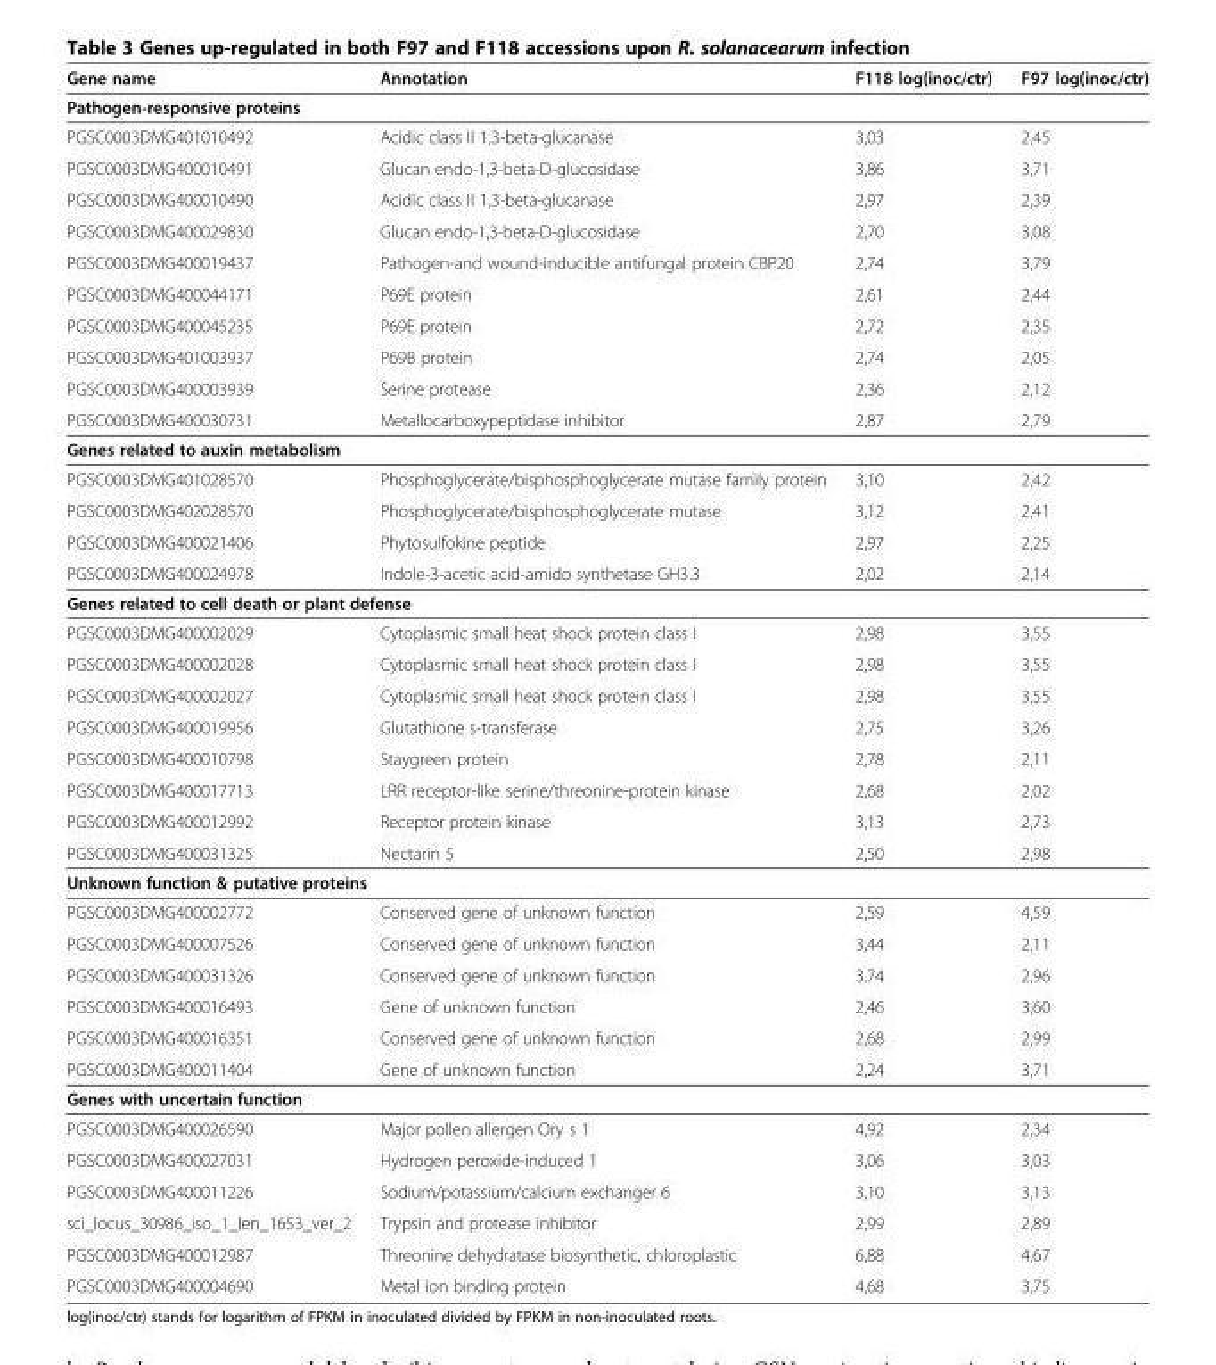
<table><thead><tr><td>Gene name</td><td>Annotation</td><td>F118 log(inoc/ctr)</td><td>F97 log(inoc/ctr)</td></tr></thead><tbody><tr><td colspan="4">Pathogen-responsive proteins</td></tr><tr><td>PGSC0003DMG401010492</td><td>Acidic class II 1,3-beta-glucanase</td><td>3,03</td><td>2,45</td></tr><tr><td>PGSC0003DMG400010491</td><td>Glucan endo-1,3-beta-D-glucosidase</td><td>3,86</td><td>3,71</td></tr><tr><td>PGSC0003DMG400010490</td><td>Acidic class II 1,3-beta-glucanase</td><td>2,97</td><td>2,39</td></tr><tr><td>PGSC0003DMG400029830</td><td>Glucan endo-1,3-beta-D-glucosidase</td><td>2,70</td><td>3,08</td></tr><tr><td>PGSC0003DMG400019437</td><td>Pathogen-and wound-inducible antifungal protein CBP20</td><td>2,74</td><td>3,79</td></tr><tr><td>PGSC0003DMG400044171</td><td>P69E protein</td><td>2,61</td><td>2,44</td></tr><tr><td>PGSC0003DMG400045235</td><td>P69E protein</td><td>2,72</td><td>2,35</td></tr><tr><td>PGSC0003DMG401003937</td><td>P69B protein</td><td>2,74</td><td>2,05</td></tr><tr><td>PGSC0003DMG400003939</td><td>Serine protease</td><td>2,36</td><td>2,12</td></tr><tr><td>PGSC0003DMG400030731</td><td>Metallocarboxypeptidase inhibitor</td><td>2,87</td><td>2,79</td></tr><tr><td colspan="4">Genes related to auxin metabolism</td></tr><tr><td>PGSC0003DMG401028570</td><td>Phosphoglycerate/bisphosphoglycerate mutase family protein</td><td>3,10</td><td>2,42</td></tr><tr><td>PGSC0003DMG402028570</td><td>Phosphoglycerate/bisphosphoglycerate mutase</td><td>3,12</td><td>2,41</td></tr><tr><td>PGSC0003DMG400021406</td><td>Phytosulfokine peptide</td><td>2,97</td><td>2,25</td></tr><tr><td>PGSC0003DMG400024978</td><td>Indole-3-acetic acid-amido synthetase GH3.3</td><td>2,02</td><td>2,14</td></tr><tr><td colspan="4">Genes related to cell death or plant defense</td></tr><tr><td>PGSC0003DMG400002029</td><td>Cytoplasmic small heat shock protein class I</td><td>2,98</td><td>3,55</td></tr><tr><td>PGSC0003DMG400002028</td><td>Cytoplasmic small heat shock protein class I</td><td>2,98</td><td>3,55</td></tr><tr><td>PGSC0003DMG400002027</td><td>Cytoplasmic small heat shock protein class I</td><td>2,98</td><td>3,55</td></tr><tr><td>PGSC0003DMG400019956</td><td>Glutathione s-transferase</td><td>2,75</td><td>3,26</td></tr><tr><td>PGSC0003DMG400010798</td><td>Staygreen protein</td><td>2,78</td><td>2,11</td></tr><tr><td>PGSC0003DMG400017713</td><td>LRR receptor-like serine/threonine-protein kinase</td><td>2,68</td><td>2,02</td></tr><tr><td>PGSC0003DMG400012992</td><td>Receptor protein kinase</td><td>3,13</td><td>2,73</td></tr><tr><td>PGSC0003DMG400031325</td><td>Nectarin 5</td><td>2,50</td><td>2,98</td></tr><tr><td colspan="4">Unknown function &amp; putative proteins</td></tr><tr><td>PGSC0003DMG400002772</td><td>Conserved gene of unknown function</td><td>2,59</td><td>4,59</td></tr><tr><td>PGSC0003DMG400007526</td><td>Conserved gene of unknown function</td><td>3,44</td><td>2,11</td></tr><tr><td>PGSC0003DMG400031326</td><td>Conserved gene of unknown function</td><td>3.74</td><td>2,96</td></tr><tr><td>PGSC0003DMG400016493</td><td>Gene of unknown function</td><td>2,46</td><td>3,60</td></tr><tr><td>PGSC0003DMG400016351</td><td>Conserved gene of unknown function</td><td>2,68</td><td>2,99</td></tr><tr><td>PGSC0003DMG400011404</td><td>Gene of unknown function</td><td>2,24</td><td>3,71</td></tr><tr><td colspan="4">Genes with uncertain function</td></tr><tr><td>PGSC0003DMG400026590</td><td>Major pollen allergen Ory s 1</td><td>4,92</td><td>2,34</td></tr><tr><td>PGSC0003DMG400027031</td><td>Hydrogen peroxide-induced 1</td><td>3,06</td><td>3,03</td></tr><tr><td>PGSC0003DMG400011226</td><td>Sodium/potassium/calcium exchanger 6</td><td>3,10</td><td>3,13</td></tr><tr><td>sci_locus_30986_iso_1_len_1653_ver_2</td><td>Trypsin and protease inhibitor</td><td>2,99</td><td>2,89</td></tr><tr><td>PGSC0003DMG400012987</td><td>Threonine dehydratase biosynthetic, chloroplastic</td><td>6,88</td><td>4,67</td></tr><tr><td>PGSC0003DMG400004690</td><td>Metal ion binding protein</td><td>4,68</td><td>3,75</td></tr></tbody></table>